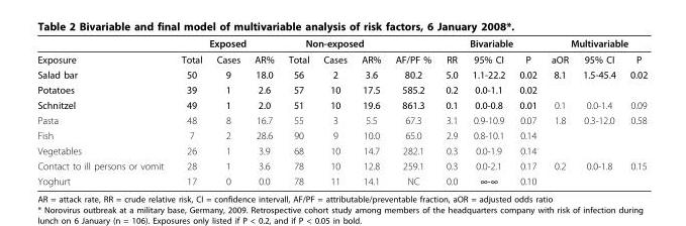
<table><thead><tr><td rowspan="2">Exposure</td><td colspan="3">Exposed</td><td colspan="3">Non-exposed</td><td rowspan="2">AF/PF %</td><td colspan="3">Bivariable</td><td colspan="3">Multivariable</td></tr><tr><td>Total</td><td>Cases</td><td>AR%</td><td>Total</td><td>Cases</td><td>AR%</td><td>RR</td><td>95% CI</td><td>P</td><td>aOR</td><td>95% CI</td><td>P</td></tr></thead><tbody><tr><td>Salad bar</td><td>50</td><td>9</td><td>18.0</td><td>56</td><td>2</td><td>3.6</td><td>80.2</td><td>5.0</td><td>1.1-22.2</td><td>0.02</td><td>8.1</td><td>1.5-45.4</td><td>0.02</td></tr><tr><td>Potatoes</td><td>39</td><td>1</td><td>2.6</td><td>57</td><td>10</td><td>17.5</td><td>585.2</td><td>0.2</td><td>0.0-1.1</td><td>0.02</td><td></td><td></td><td></td></tr><tr><td>Schnitzel</td><td>49</td><td>1</td><td>2.0</td><td>51</td><td>10</td><td>19.6</td><td>861.3</td><td>0.1</td><td>0.0-0.8</td><td>0.01</td><td>0.1</td><td>0.0-1.4</td><td>0.09</td></tr><tr><td>Pasta</td><td>48</td><td>8</td><td>16.7</td><td>55</td><td>3</td><td>5.5</td><td>67.3</td><td>3.1</td><td>0.9-10.9</td><td>0.07</td><td>1.8</td><td>0.3-12.0</td><td>0.58</td></tr><tr><td>Fish</td><td>7</td><td>2</td><td>28.6</td><td>90</td><td>9</td><td>10.0</td><td>65.0</td><td>2.9</td><td>0.8-10.1</td><td>0.14</td><td></td><td></td><td></td></tr><tr><td>Vegetables</td><td>26</td><td>1</td><td>3.9</td><td>68</td><td>10</td><td>14.7</td><td>282.1</td><td>0.3</td><td>0.0-1.9</td><td>0.14</td><td></td><td></td><td></td></tr><tr><td>Contact to ill persons or vomit</td><td>28</td><td>1</td><td>3.6</td><td>78</td><td>10</td><td>12.8</td><td>259.1</td><td>0.3</td><td>0.0-2.1</td><td>0.17</td><td>0.2</td><td>0.0-1.8</td><td>0.15</td></tr><tr><td>Yoghurt</td><td>17</td><td>0</td><td>0.0</td><td>78</td><td>11</td><td>14.1</td><td>NC</td><td>0.0</td><td>∞-∞</td><td>0.10</td><td></td><td></td><td></td></tr></tbody></table>